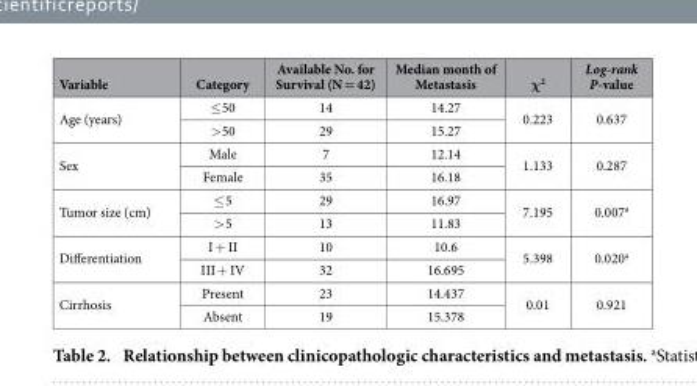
<table><thead><tr><td>Variable</td><td>Category</td><td>Available No. for Survival (N = 42)</td><td>Median month of Metastasis</td><td>χ<sup>2</sup></td><td>Log-rank P-value</td></tr></thead><tbody><tr><td rowspan="2">Age (years)</td><td>≤ 50</td><td>14</td><td>14.27</td><td rowspan="2">0.223</td><td rowspan="2">0.637</td></tr><tr><td>&gt; 50</td><td>29</td><td>15.27</td></tr><tr><td rowspan="2">Sex</td><td>Male</td><td>7</td><td>12.14</td><td rowspan="2">1.133</td><td rowspan="2">0.287</td></tr><tr><td>Female</td><td>35</td><td>16.18</td></tr><tr><td rowspan="2">Tumor size (cm)</td><td>≤ 5</td><td>29</td><td>16.97</td><td rowspan="2">7.195</td><td rowspan="2">0.007<sup>a</sup></td></tr><tr><td>&gt; 5</td><td>13</td><td>11.83</td></tr><tr><td rowspan="2">Differentiation</td><td>I + II</td><td>10</td><td>10.6</td><td rowspan="2">5.398</td><td rowspan="2">0.020<sup>a</sup></td></tr><tr><td>III + IV</td><td>32</td><td>16.695</td></tr><tr><td rowspan="2">Cirrhosis</td><td>Present</td><td>23</td><td>14.437</td><td rowspan="2">0.01</td><td rowspan="2">0.921</td></tr><tr><td>Absent</td><td>19</td><td>15.378</td></tr></tbody></table>